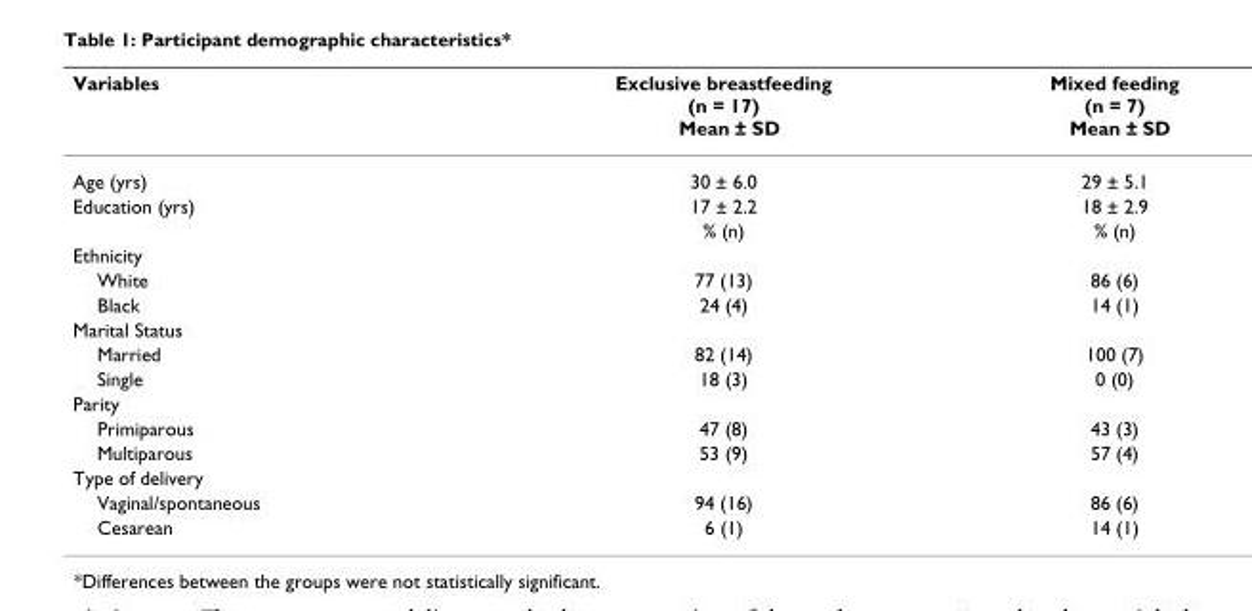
<table><thead><tr><td>Variables</td><td>Exclusive breastfeeding (n = 17) Mean ± SD</td><td>Mixed feeding (n = 7) Mean ± SD</td></tr></thead><tbody><tr><td>Age (yrs)</td><td>30 ± 6.0</td><td>29 ± 5.1</td></tr><tr><td rowspan="2">Education (yrs)</td><td>17 ± 2.2</td><td>18 ± 2.9</td></tr><tr><td>% (n)</td><td>% (n)</td></tr><tr><td colspan="3">Ethnicity</td></tr><tr><td>White</td><td>77 (13)</td><td>86 (6)</td></tr><tr><td>Black</td><td>24 (4)</td><td>14 (1)</td></tr><tr><td colspan="3">Marital Status</td></tr><tr><td>Married</td><td>82 (14)</td><td>100 (7)</td></tr><tr><td>Single</td><td>18 (3)</td><td>0 (0)</td></tr><tr><td colspan="3">Parity</td></tr><tr><td>Primiparous</td><td>47 (8)</td><td>43 (3)</td></tr><tr><td>Multiparous</td><td>53 (9)</td><td>57 (4)</td></tr><tr><td colspan="3">Type of delivery</td></tr><tr><td>Vaginal/spontaneous</td><td>94 (16)</td><td>86 (6)</td></tr><tr><td>Cesarean</td><td>6 (1)</td><td>14 (1)</td></tr></tbody></table>